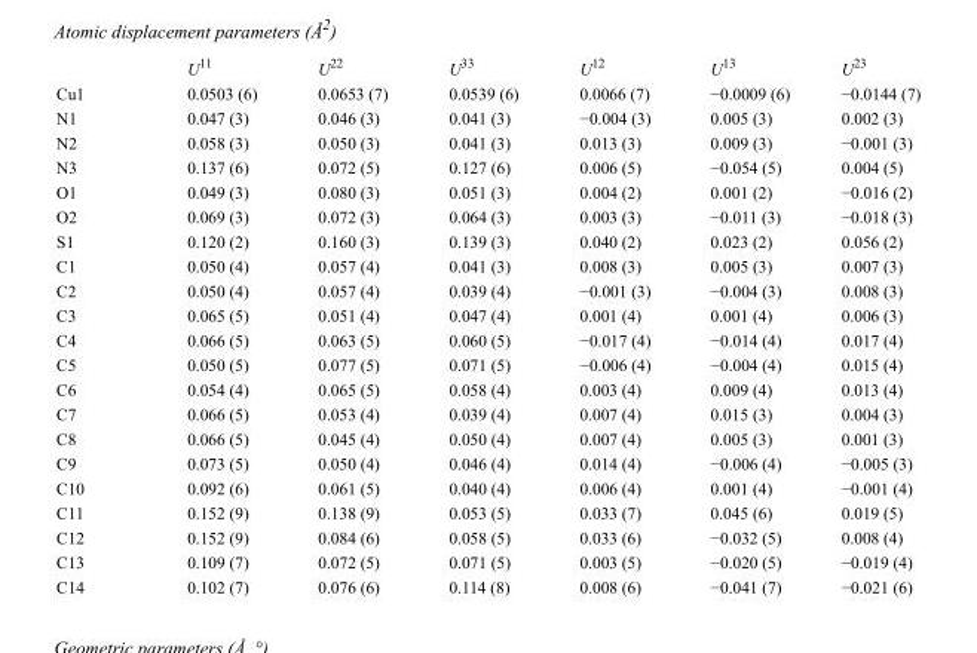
<table><thead><tr><td></td><td>U<sup>11</sup></td><td>U<sup>22</sup></td><td>U<sup>33</sup></td><td>U<sup>12</sup></td><td>U<sup>13</sup></td><td>U<sup>23</sup></td></tr></thead><tbody><tr><td>Cu1</td><td>0.0503 (6)</td><td>0.0653 (7)</td><td>0.0539 (6)</td><td>0.0066 (7)</td><td>−0.0009 (6)</td><td>−0.0144 (7)</td></tr><tr><td>N1</td><td>0.047 (3)</td><td>0.046 (3)</td><td>0.041 (3)</td><td>−0.004 (3)</td><td>0.005 (3)</td><td>0.002 (3)</td></tr><tr><td>N2</td><td>0.058 (3)</td><td>0.050 (3)</td><td>0.041 (3)</td><td>0.013 (3)</td><td>0.009 (3)</td><td>−0.001 (3)</td></tr><tr><td>N3</td><td>0.137 (6)</td><td>0.072 (5)</td><td>0.127 (6)</td><td>0.006 (5)</td><td>−0.054 (5)</td><td>0.004 (5)</td></tr><tr><td>O1</td><td>0.049 (3)</td><td>0.080 (3)</td><td>0.051 (3)</td><td>0.004 (2)</td><td>0.001 (2)</td><td>−0.016 (2)</td></tr><tr><td>O2</td><td>0.069 (3)</td><td>0.072 (3)</td><td>0.064 (3)</td><td>0.003 (3)</td><td>−0.011 (3)</td><td>−0.018 (3)</td></tr><tr><td>S1</td><td>0.120 (2)</td><td>0.160 (3)</td><td>0.139 (3)</td><td>0.040 (2)</td><td>0.023 (2)</td><td>0.056 (2)</td></tr><tr><td>C1</td><td>0.050 (4)</td><td>0.057 (4)</td><td>0.041 (3)</td><td>0.008 (3)</td><td>0.005 (3)</td><td>0.007 (3)</td></tr><tr><td>C2</td><td>0.050 (4)</td><td>0.057 (4)</td><td>0.039 (4)</td><td>−0.001 (3)</td><td>−0.004 (3)</td><td>0.008 (3)</td></tr><tr><td>C3</td><td>0.065 (5)</td><td>0.051 (4)</td><td>0.047 (4)</td><td>0.001 (4)</td><td>0.001 (4)</td><td>0.006 (3)</td></tr><tr><td>C4</td><td>0.066 (5)</td><td>0.063 (5)</td><td>0.060 (5)</td><td>−0.017 (4)</td><td>−0.014 (4)</td><td>0.017 (4)</td></tr><tr><td>C5</td><td>0.050 (5)</td><td>0.077 (5)</td><td>0.071 (5)</td><td>−0.006 (4)</td><td>−0.004 (4)</td><td>0.015 (4)</td></tr><tr><td>C6</td><td>0.054 (4)</td><td>0.065 (5)</td><td>0.058 (4)</td><td>0.003 (4)</td><td>0.009 (4)</td><td>0.013 (4)</td></tr><tr><td>C7</td><td>0.066 (5)</td><td>0.053 (4)</td><td>0.039 (4)</td><td>0.007 (4)</td><td>0.015 (3)</td><td>0.004 (3)</td></tr><tr><td>C8</td><td>0.066 (5)</td><td>0.045 (4)</td><td>0.050 (4)</td><td>0.007 (4)</td><td>0.005 (3)</td><td>0.001 (3)</td></tr><tr><td>C9</td><td>0.073 (5)</td><td>0.050 (4)</td><td>0.046 (4)</td><td>0.014 (4)</td><td>−0.006 (4)</td><td>−0.005 (3)</td></tr><tr><td>C10</td><td>0.092 (6)</td><td>0.061 (5)</td><td>0.040 (4)</td><td>0.006 (4)</td><td>0.001 (4)</td><td>−0.001 (4)</td></tr><tr><td>C11</td><td>0.152 (9)</td><td>0.138 (9)</td><td>0.053 (5)</td><td>0.033 (7)</td><td>0.045 (6)</td><td>0.019 (5)</td></tr><tr><td>C12</td><td>0.152 (9)</td><td>0.084 (6)</td><td>0.058 (5)</td><td>0.033 (6)</td><td>−0.032 (5)</td><td>0.008 (4)</td></tr><tr><td>C13</td><td>0.109 (7)</td><td>0.072 (5)</td><td>0.071 (5)</td><td>0.003 (5)</td><td>−0.020 (5)</td><td>−0.019 (4)</td></tr><tr><td>C14</td><td>0.102 (7)</td><td>0.076 (6)</td><td>0.114 (8)</td><td>0.008 (6)</td><td>−0.041 (7)</td><td>−0.021 (6)</td></tr></tbody></table>